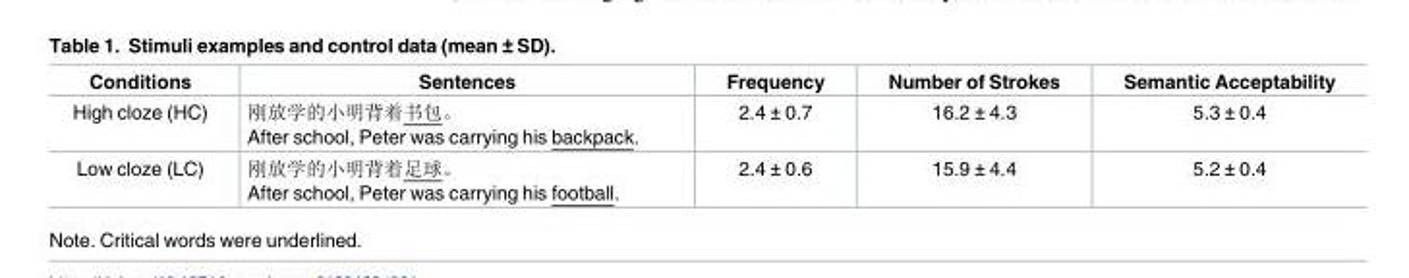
<table><thead><tr><td>Conditions</td><td>Sentences</td><td>Frequency</td><td>Number of Strokes</td><td>Semantic Acceptability</td></tr></thead><tbody><tr><td>High cloze (HC)</td><td>刚放学的小明背着书包。 After school, Peter was carrying his backpack.</td><td>2.4 ± 0.7</td><td>16.2 ± 4.3</td><td>5.3 ± 0.4</td></tr><tr><td>Low cloze (LC)</td><td>刚放学的小明背着足球。 After school, Peter was carrying his football.</td><td>2.4 ± 0.6</td><td>15.9 ± 4.4</td><td>5.2 ± 0.4</td></tr></tbody></table>